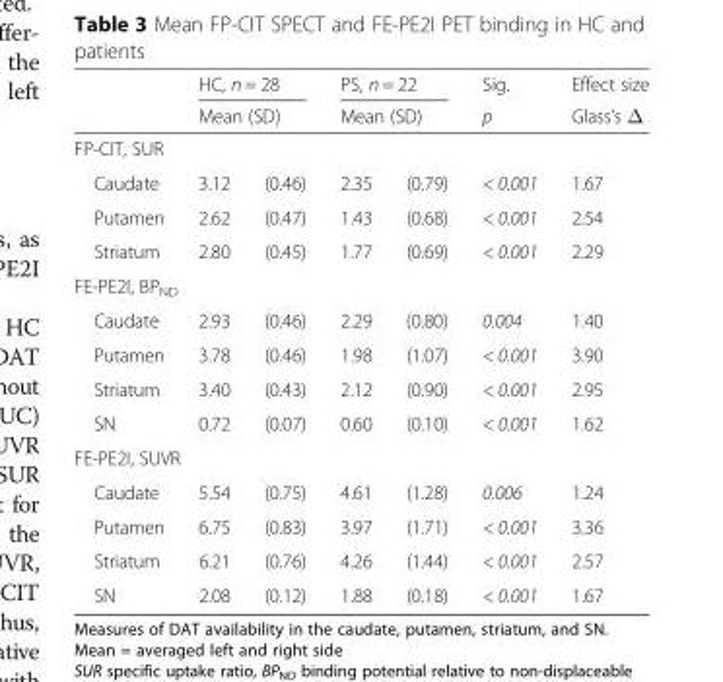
<table><thead><tr><td rowspan="2"></td><td rowspan="2" colspan="2">HC, n = 28 Mean (SD)</td><td rowspan="2" colspan="2">PS, n = 22 Mean (SD)</td><td rowspan="2">Sig. p</td><td rowspan="2">Effect size Glass’s Δ</td></tr><tr></tr><tr><td colspan="7">FP-CIT, SUR</td></tr><tr><td>Caudate</td><td>3.12</td><td>(0.46)</td><td>2.35</td><td>(0.79)</td><td>&lt; 0.001</td><td>1.67</td></tr></thead><tbody><tr><td>Putamen</td><td>2.62</td><td>(0.47)</td><td>1.43</td><td>(0.68)</td><td>&lt; 0.001</td><td>2.54</td></tr><tr><td>Striatum</td><td>2.80</td><td>(0.45)</td><td>1.77</td><td>(0.69)</td><td>&lt; 0.001</td><td>2.29</td></tr><tr><td colspan="7">FE-PE2I, BP<sub>ND</sub></td></tr><tr><td>Caudate</td><td>2.93</td><td>(0.46)</td><td>2.29</td><td>(0.80)</td><td>0.004</td><td>1.40</td></tr><tr><td>Putamen</td><td>3.78</td><td>(0.46)</td><td>1.98</td><td>(1.07)</td><td>&lt; 0.001</td><td>3.90</td></tr><tr><td>Striatum</td><td>3.40</td><td>(0.43)</td><td>2.12</td><td>(0.90)</td><td>&lt; 0.001</td><td>2.95</td></tr><tr><td>SN</td><td>0.72</td><td>(0.07)</td><td>0.60</td><td>(0.10)</td><td>&lt; 0.001</td><td>1.62</td></tr><tr><td colspan="7">FE-PE2I, SUVR</td></tr><tr><td>Caudate</td><td>5.54</td><td>(0.75)</td><td>4.61</td><td>(1.28)</td><td>0.006</td><td>1.24</td></tr><tr><td>Putamen</td><td>6.75</td><td>(0.83)</td><td>3.97</td><td>(1.71)</td><td>&lt; 0.001</td><td>3.36</td></tr><tr><td>Striatum</td><td>6.21</td><td>(0.76)</td><td>4.26</td><td>(1.44)</td><td>&lt; 0.001</td><td>2.57</td></tr><tr><td>SN</td><td>2.08</td><td>(0.12)</td><td>1.88</td><td>(0.18)</td><td>&lt; 0.001</td><td>1.67</td></tr></tbody></table>